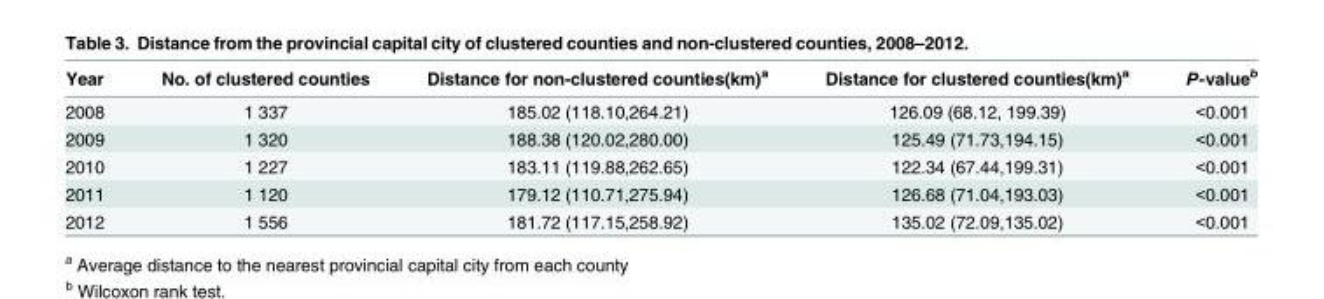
<table><thead><tr><td>Year</td><td>No. of clustered counties</td><td>Distance for non-clustered counties(km)<sup>a</sup></td><td>Distance for clustered counties(km)<sup>a</sup></td><td>P-value<sup>b</sup></td></tr></thead><tbody><tr><td>2008</td><td>1 337</td><td>185.02 (118.10,264.21)</td><td>126.09 (68.12, 199.39)</td><td>&lt;0.001</td></tr><tr><td>2009</td><td>1 320</td><td>188.38 (120.02,280.00)</td><td>125.49 (71.73,194.15)</td><td>&lt;0.001</td></tr><tr><td>2010</td><td>1 227</td><td>183.11 (119.88,262.65)</td><td>122.34 (67.44,199.31)</td><td>&lt;0.001</td></tr><tr><td>2011</td><td>1 120</td><td>179.12 (110.71,275.94)</td><td>126.68 (71.04,193.03)</td><td>&lt;0.001</td></tr><tr><td>2012</td><td>1 556</td><td>181.72 (117.15,258.92)</td><td>135.02 (72.09,135.02)</td><td>&lt;0.001</td></tr></tbody></table>